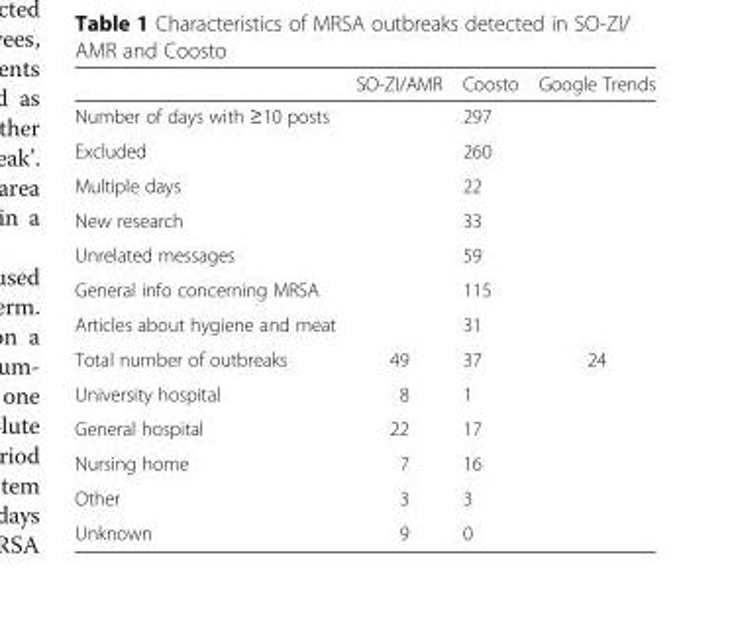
<table><thead><tr><td></td><td>SO-ZI/AMR</td><td>Coosto</td><td>Google Trends</td></tr></thead><tbody><tr><td>Number of days with ≥10 posts</td><td rowspan="7"></td><td>297</td><td rowspan="7"></td></tr><tr><td>Excluded</td><td>260</td></tr><tr><td>Multiple days</td><td>22</td></tr><tr><td>New research</td><td>33</td></tr><tr><td>Unrelated messages</td><td>59</td></tr><tr><td>General info concerning MRSA</td><td>115</td></tr><tr><td>Articles about hygiene and meat</td><td>31</td></tr><tr><td>Total number of outbreaks</td><td>49</td><td>37</td><td>24</td></tr><tr><td>University hospital</td><td>8</td><td>1</td><td></td></tr><tr><td>General hospital</td><td>22</td><td>17</td><td></td></tr><tr><td>Nursing home</td><td>7</td><td>16</td><td></td></tr><tr><td>Other</td><td>3</td><td>3</td><td></td></tr><tr><td>Unknown</td><td>9</td><td>0</td><td></td></tr></tbody></table>